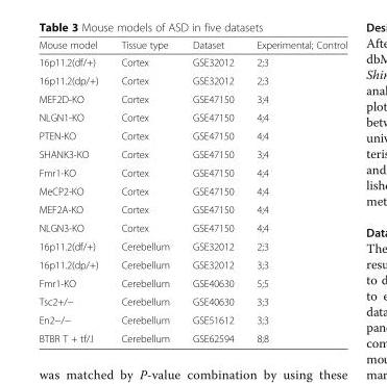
<table><thead><tr><td>Mouse model</td><td>Tissue type</td><td>Dataset</td><td>Experimental; Control</td></tr></thead><tbody><tr><td>16p11.2(df/+)</td><td>Cortex</td><td>GSE32012</td><td>2;3</td></tr><tr><td>16p11.2(dp/+)</td><td>Cortex</td><td>GSE32012</td><td>2;3</td></tr><tr><td>MEF2D-KO</td><td>Cortex</td><td>GSE47150</td><td>3;4</td></tr><tr><td>NLGN1-KO</td><td>Cortex</td><td>GSE47150</td><td>4;4</td></tr><tr><td>PTEN-KO</td><td>Cortex</td><td>GSE47150</td><td>4;4</td></tr><tr><td>SHANK3-KO</td><td>Cortex</td><td>GSE47150</td><td>3;4</td></tr><tr><td>Fmr1-KO</td><td>Cortex</td><td>GSE47150</td><td>4;4</td></tr><tr><td>MeCP2-KO</td><td>Cortex</td><td>GSE47150</td><td>4;4</td></tr><tr><td>MEF2A-KO</td><td>Cortex</td><td>GSE47150</td><td>4;4</td></tr><tr><td>NLGN3-KO</td><td>Cortex</td><td>GSE47150</td><td>4;4</td></tr><tr><td>16p11.2(df/+)</td><td>Cerebellum</td><td>GSE32012</td><td>2;3</td></tr><tr><td>16p11.2(dp/+)</td><td>Cerebellum</td><td>GSE32012</td><td>3;3</td></tr><tr><td>Fmr1-KO</td><td>Cerebellum</td><td>GSE40630</td><td>5;5</td></tr><tr><td>Tsc2+/−</td><td>Cerebellum</td><td>GSE40630</td><td>3;3</td></tr><tr><td>En2−/−</td><td>Cerebellum</td><td>GSE51612</td><td>3;3</td></tr><tr><td>BTBR T + tf/J</td><td>Cerebellum</td><td>GSE62594</td><td>8;8</td></tr></tbody></table>